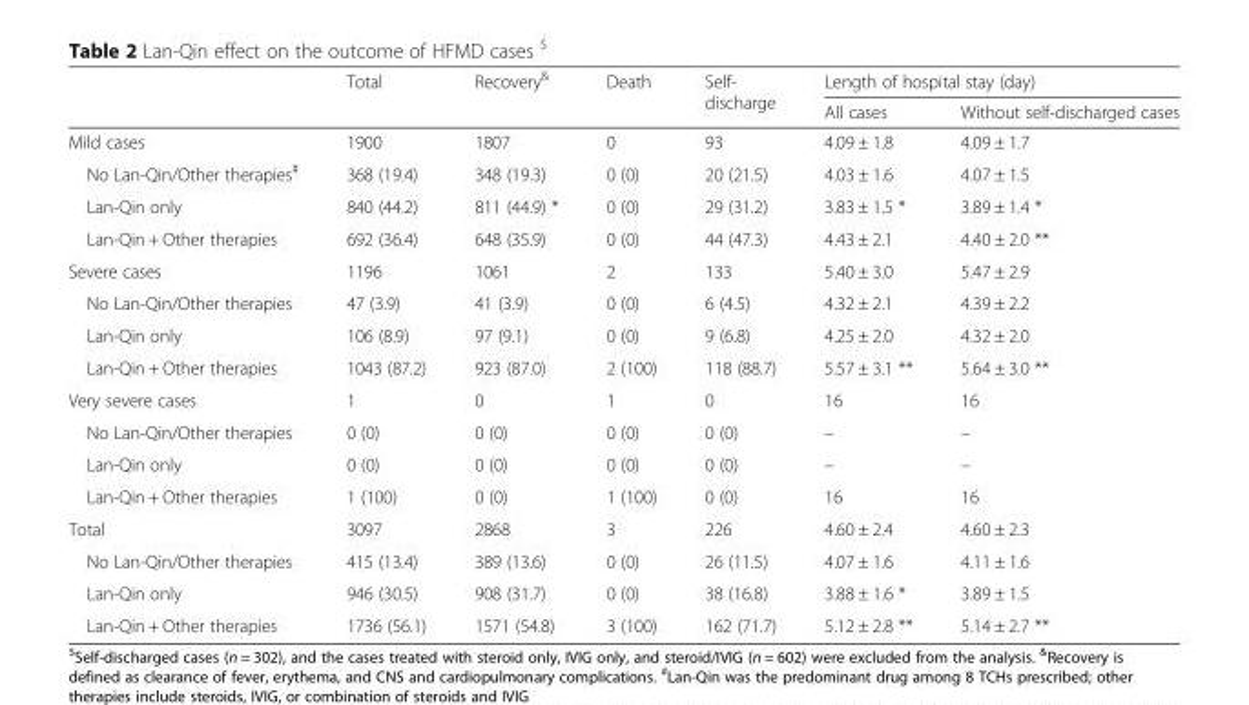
<table><thead><tr><td rowspan="2"></td><td rowspan="2">Total</td><td rowspan="2">Recovery<sup>&amp;</sup></td><td rowspan="2">Death</td><td rowspan="2">Self- discharge</td><td colspan="2">Length of hospital stay (day)</td></tr><tr><td>All cases</td><td>Without self-discharged cases</td></tr></thead><tbody><tr><td>Mild cases</td><td>1900</td><td>1807</td><td>0</td><td>93</td><td>4.09 ± 1.8</td><td>4.09 ± 1.7</td></tr><tr><td>No Lan-Qin/Other therapies<sup>#</sup></td><td>368 (19.4)</td><td>348 (19.3)</td><td>0 (0)</td><td>20 (21.5)</td><td>4.03 ± 1.6</td><td>4.07 ± 1.5</td></tr><tr><td>Lan-Qin only</td><td>840 (44.2)</td><td>811 (44.9) *</td><td>0 (0)</td><td>29 (31.2)</td><td>3.83 ± 1.5 *</td><td>3.89 ± 1.4 *</td></tr><tr><td>Lan-Qin + Other therapies</td><td>692 (36.4)</td><td>648 (35.9)</td><td>0 (0)</td><td>44 (47.3)</td><td>4.43 ± 2.1</td><td>4.40 ± 2.0 **</td></tr><tr><td>Severe cases</td><td>1196</td><td>1061</td><td>2</td><td>133</td><td>5.40 ± 3.0</td><td>5.47 ± 2.9</td></tr><tr><td>No Lan-Qin/Other therapies</td><td>47 (3.9)</td><td>41 (3.9)</td><td>0 (0)</td><td>6 (4.5)</td><td>4.32 ± 2.1</td><td>4.39 ± 2.2</td></tr><tr><td>Lan-Qin only</td><td>106 (8.9)</td><td>97 (9.1)</td><td>0 (0)</td><td>9 (6.8)</td><td>4.25 ± 2.0</td><td>4.32 ± 2.0</td></tr><tr><td>Lan-Qin + Other therapies</td><td>1043 (87.2)</td><td>923 (87.0)</td><td>2 (100)</td><td>118 (88.7)</td><td>5.57 ± 3.1 **</td><td>5.64 ± 3.0 **</td></tr><tr><td>Very severe cases</td><td>1</td><td>0</td><td>1</td><td>0</td><td>16</td><td>16</td></tr><tr><td>No Lan-Qin/Other therapies</td><td>0 (0)</td><td>0 (0)</td><td>0 (0)</td><td>0 (0)</td><td>–</td><td>–</td></tr><tr><td>Lan-Qin only</td><td>0 (0)</td><td>0 (0)</td><td>0 (0)</td><td>0 (0)</td><td>–</td><td>–</td></tr><tr><td>Lan-Qin + Other therapies</td><td>1 (100)</td><td>0 (0)</td><td>1 (100)</td><td>0 (0)</td><td>16</td><td>16</td></tr><tr><td>Total</td><td>3097</td><td>2868</td><td>3</td><td>226</td><td>4.60 ± 2.4</td><td>4.60 ± 2.3</td></tr><tr><td>No Lan-Qin/Other therapies</td><td>415 (13.4)</td><td>389 (13.6)</td><td>0 (0)</td><td>26 (11.5)</td><td>4.07 ± 1.6</td><td>4.11 ± 1.6</td></tr><tr><td>Lan-Qin only</td><td>946 (30.5)</td><td>908 (31.7)</td><td>0 (0)</td><td>38 (16.8)</td><td>3.88 ± 1.6 *</td><td>3.89 ± 1.5</td></tr><tr><td>Lan-Qin + Other therapies</td><td>1736 (56.1)</td><td>1571 (54.8)</td><td>3 (100)</td><td>162 (71.7)</td><td>5.12 ± 2.8 **</td><td>5.14 ± 2.7 **</td></tr></tbody></table>